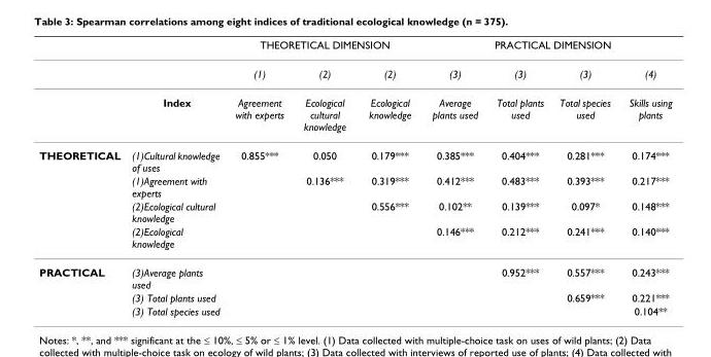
<table><thead><tr><td rowspan="2"></td><td rowspan="2"></td><td colspan="3">THEORETICAL DIMENSION</td><td colspan="4">PRACTICAL DIMENSION</td></tr><tr><td>(1)</td><td>(2)</td><td>(2)</td><td>(3)</td><td>(3)</td><td>(3)</td><td>(4)</td></tr></thead><tbody><tr><td></td><td>Index</td><td>Agreement with experts</td><td>Ecological cultural knowledge</td><td>Ecological knowledge</td><td>Average plants used</td><td>Total plants used</td><td>Total species used</td><td>Skills using plants</td></tr><tr><td rowspan="4">THEORETICAL</td><td>(1)Cultural knowledge of uses</td><td>0.855***</td><td>0.050</td><td>0.179***</td><td>0.385***</td><td>0.404***</td><td>0.281***</td><td>0.174***</td></tr><tr><td>(1)Agreement with experts</td><td></td><td>0.136***</td><td>0.319***</td><td>0.412***</td><td>0.483***</td><td>0.393***</td><td>0.217***</td></tr><tr><td>(2)Ecological cultural knowledge</td><td></td><td></td><td>0.556***</td><td>0.102**</td><td>0.139***</td><td>0.097*</td><td>0.148***</td></tr><tr><td>(2)Ecological knowledge</td><td></td><td></td><td></td><td>0.146***</td><td>0.212***</td><td>0.241***</td><td>0.140***</td></tr><tr><td rowspan="3">PRACTICAL</td><td>(3)Average plants used</td><td></td><td></td><td></td><td></td><td>0.952***</td><td>0.557***</td><td>0.243***</td></tr><tr><td>(3) Total plants used</td><td></td><td></td><td></td><td></td><td></td><td>0.659***</td><td>0.221***</td></tr><tr><td>(3) Total species used</td><td></td><td></td><td></td><td></td><td></td><td></td><td>0.104**</td></tr></tbody></table>